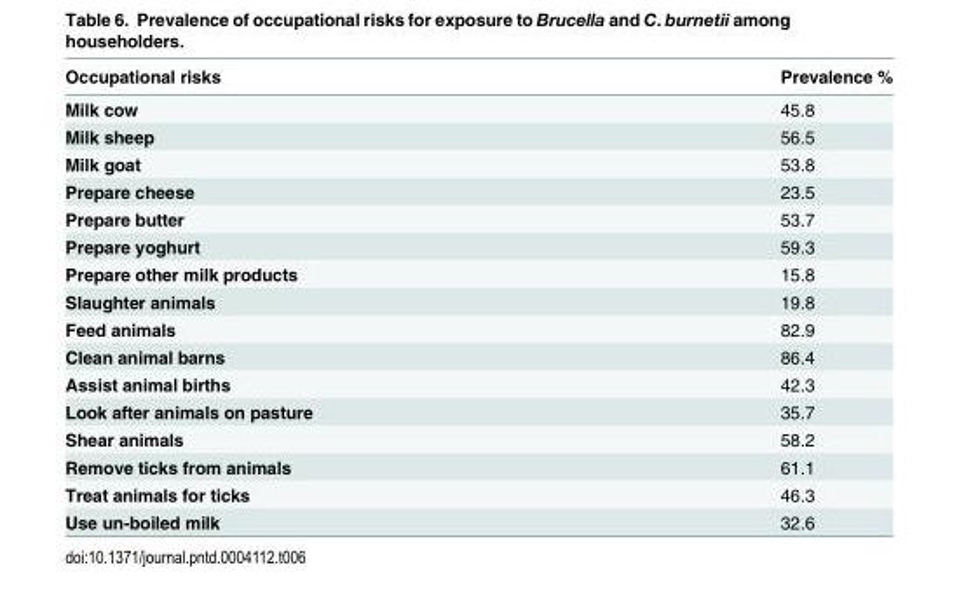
<table><thead><tr><td>Occupational risks</td><td>Prevalence %</td></tr></thead><tbody><tr><td>Milk cow</td><td>45.8</td></tr><tr><td>Milk sheep</td><td>56.5</td></tr><tr><td>Milk goat</td><td>53.8</td></tr><tr><td>Prepare cheese</td><td>23.5</td></tr><tr><td>Prepare butter</td><td>53.7</td></tr><tr><td>Prepare yoghurt</td><td>59.3</td></tr><tr><td>Prepare other milk products</td><td>15.8</td></tr><tr><td>Slaughter animals</td><td>19.8</td></tr><tr><td>Feed animals</td><td>82.9</td></tr><tr><td>Clean animal barns</td><td>86.4</td></tr><tr><td>Assist animal births</td><td>42.3</td></tr><tr><td>Look after animals on pasture</td><td>35.7</td></tr><tr><td>Shear animals</td><td>58.2</td></tr><tr><td>Remove ticks from animals</td><td>61.1</td></tr><tr><td>Treat animals for ticks</td><td>46.3</td></tr><tr><td>Use un-boiled milk</td><td>32.6</td></tr></tbody></table>